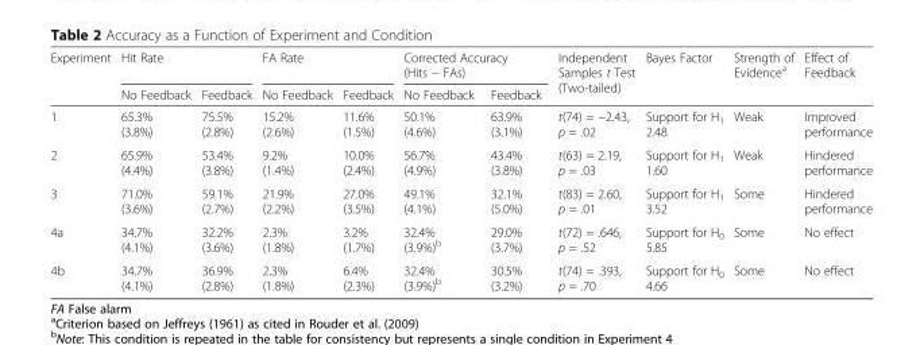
<table><thead><tr><td rowspan="2">Experiment</td><td colspan="2">Hit Rate</td><td colspan="2">FA Rate</td><td colspan="2">Corrected Accuracy (Hits − FAs)</td><td rowspan="2">Independent Samples t Test (Two-tailed)</td><td rowspan="2">Bayes Factor</td><td rowspan="2">Strength of Evidence<sup>a</sup></td><td rowspan="2">Effect of Feedback</td></tr><tr><td>No Feedback</td><td>Feedback</td><td>No Feedback</td><td>Feedback</td><td>No Feedback</td><td>Feedback</td></tr></thead><tbody><tr><td>1</td><td>65.3% (3.8%)</td><td>75.5% (2.8%)</td><td>15.2% (2.6%)</td><td>11.6% (1.5%)</td><td>50.1% (4.6%)</td><td>63.9% (3.1%)</td><td>t(74) = −2.43, p = .02</td><td>Support for H<sub>1</sub> 2.48</td><td>Weak</td><td>Improved performance</td></tr><tr><td>2</td><td>65.9% (4.4%)</td><td>53.4% (3.8%)</td><td>9.2% (1.4%)</td><td>10.0% (2.4%)</td><td>56.7% (4.9%)</td><td>43.4% (3.8%)</td><td>t(63) = 2.19, p = .03</td><td>Support for H<sub>1</sub> 1.60</td><td>Weak</td><td>Hindered performance</td></tr><tr><td>3</td><td>71.0% (3.6%)</td><td>59.1% (2.7%)</td><td>21.9% (2.2%)</td><td>27.0% (3.5%)</td><td>49.1% (4.1%)</td><td>32.1% (5.0%)</td><td>t(83) = 2.60, p = .01</td><td>Support for H<sub>1</sub> 3.52</td><td>Some</td><td>Hindered performance</td></tr><tr><td>4a</td><td>34.7% (4.1%)</td><td>32.2% (3.6%)</td><td>2.3% (1.8%)</td><td>3.2% (1.7%)</td><td>32.4% (3.9%)<sup>b</sup></td><td>29.0% (3.7%)</td><td>t(72) = .646, p = .52</td><td>Support for H<sub>0</sub> 5.85</td><td>Some</td><td>No effect</td></tr><tr><td>4b</td><td>34.7% (4.1%)</td><td>36.9% (2.8%)</td><td>2.3% (1.8%)</td><td>6.4% (2.3%)</td><td>32.4% (3.9%)<sup>b</sup></td><td>30.5% (3.2%)</td><td>t(74) = .393, p = .70</td><td>Support for H<sub>0</sub> 4.66</td><td>Some</td><td>No effect</td></tr></tbody></table>